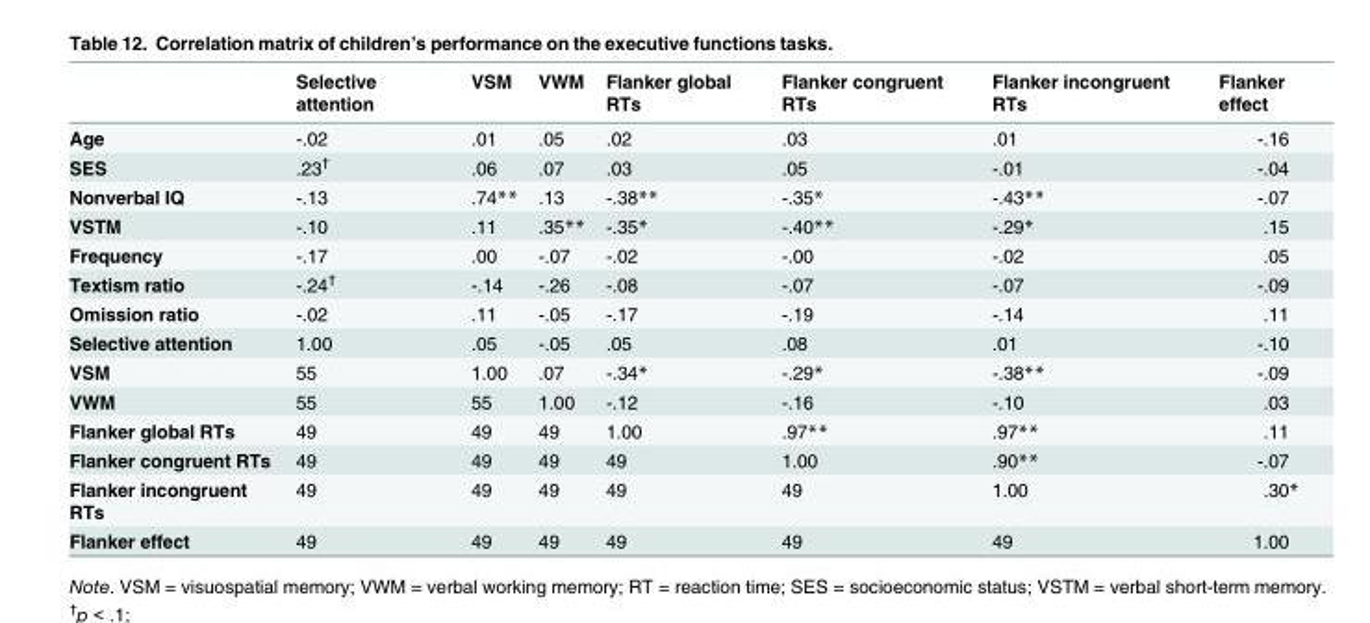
<table><thead><tr><td></td><td>Selective attention</td><td>VSM</td><td>VWM</td><td>Flanker global RTs</td><td>Flanker congruent RTs</td><td>Flanker incongruent RTs</td><td>Flanker effect</td></tr></thead><tbody><tr><td>Age</td><td>-.02</td><td>.01</td><td>.05</td><td>.02</td><td>.03</td><td>.01</td><td>-.16</td></tr><tr><td>SES</td><td>.23<sup>†</sup></td><td>.06</td><td>.07</td><td>.03</td><td>.05</td><td>-.01</td><td>-.04</td></tr><tr><td>Nonverbal IQ</td><td>-.13</td><td>.74**</td><td>.13</td><td>-.38**</td><td>-.35*</td><td>-.43**</td><td>-.07</td></tr><tr><td>VSTM</td><td>-.10</td><td>.11</td><td>.35**</td><td>-.35*</td><td>-.40**</td><td>-.29*</td><td>.15</td></tr><tr><td>Frequency</td><td>-.17</td><td>.00</td><td>-.07</td><td>-.02</td><td>-.00</td><td>-.02</td><td>.05</td></tr><tr><td>Textism ratio</td><td>-.24<sup>†</sup></td><td>-.14</td><td>-.26</td><td>-.08</td><td>-.07</td><td>-.07</td><td>-.09</td></tr><tr><td>Omission ratio</td><td>-.02</td><td>.11</td><td>-.05</td><td>-.17</td><td>-.19</td><td>-.14</td><td>.11</td></tr><tr><td>Selective attention</td><td>1.00</td><td>.05</td><td>-.05</td><td>.05</td><td>.08</td><td>.01</td><td>-.10</td></tr><tr><td>VSM</td><td>55</td><td>1.00</td><td>.07</td><td>-.34*</td><td>-.29*</td><td>-.38**</td><td>-.09</td></tr><tr><td>VWM</td><td>55</td><td>55</td><td>1.00</td><td>-.12</td><td>-.16</td><td>-.10</td><td>.03</td></tr><tr><td>Flanker global RTs</td><td>49</td><td>49</td><td>49</td><td>1.00</td><td>.97**</td><td>.97**</td><td>.11</td></tr><tr><td>Flanker congruent RTs</td><td>49</td><td>49</td><td>49</td><td>49</td><td>1.00</td><td>.90**</td><td>-.07</td></tr><tr><td>Flanker incongruent RTs</td><td>49</td><td>49</td><td>49</td><td>49</td><td>49</td><td>1.00</td><td>.30*</td></tr><tr><td>Flanker effect</td><td>49</td><td>49</td><td>49</td><td>49</td><td>49</td><td>49</td><td>1.00</td></tr></tbody></table>